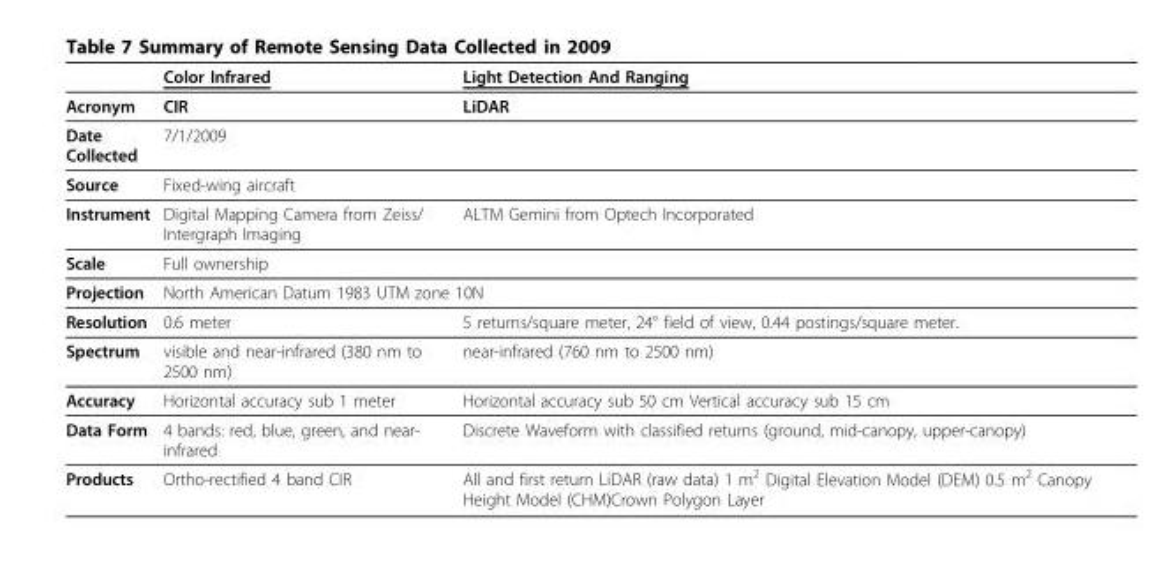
<table><thead><tr><td></td><td>Color Infrared</td><td>Light Detection And Ranging</td></tr></thead><tbody><tr><td>Acronym</td><td>CIR</td><td>LiDAR</td></tr><tr><td>Date Collected</td><td colspan="2">7/1/2009</td></tr><tr><td>Source</td><td colspan="2">Fixed-wing aircraft</td></tr><tr><td>Instrument</td><td>Digital Mapping Camera from Zeiss/ Intergraph Imaging</td><td>ALTM Gemini from Optech Incorporated</td></tr><tr><td>Scale</td><td colspan="2">Full ownership</td></tr><tr><td>Projection</td><td colspan="2">North American Datum 1983 UTM zone 10N</td></tr><tr><td>Resolution</td><td>0.6 meter</td><td>5 returns/square meter, 24° field of view, 0.44 postings/square meter.</td></tr><tr><td>Spectrum</td><td>visible and near-infrared (380 nm to 2500 nm)</td><td>near-infrared (760 nm to 2500 nm)</td></tr><tr><td>Accuracy</td><td>Horizontal accuracy sub 1 meter</td><td>Horizontal accuracy sub 50 cm Vertical accuracy sub 15 cm</td></tr><tr><td>Data Form</td><td>4 bands: red, blue, green, and near- infrared</td><td>Discrete Waveform with classified returns (ground, mid-canopy, upper-canopy)</td></tr><tr><td>Products</td><td>Ortho-rectified 4 band CIR</td><td>All and first return LiDAR (raw data) 1 m<sup>2</sup> Digital Elevation Model (DEM) 0.5 m<sup>2</sup> Canopy Height Model (CHM)Crown Polygon Layer</td></tr></tbody></table>